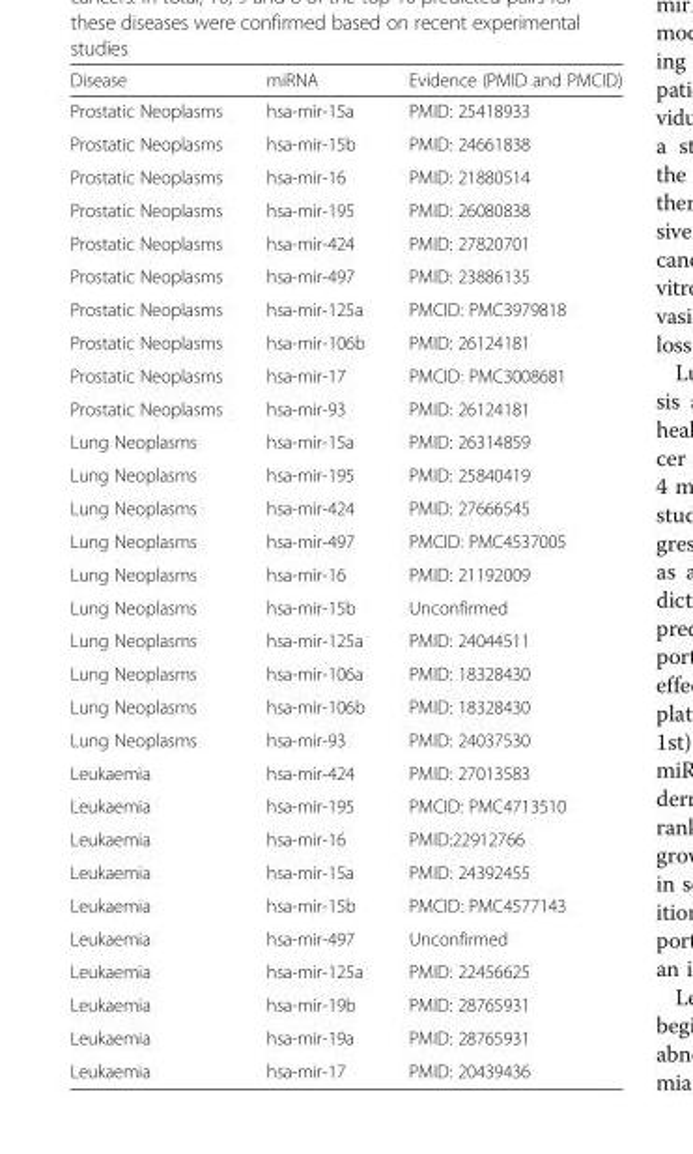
<table><thead><tr><td>Disease</td><td>miRNA</td><td>Evidence (PMID and PMCID)</td></tr></thead><tbody><tr><td>Prostatic Neoplasms</td><td>hsa-mir-15a</td><td>PMID: 25418933</td></tr><tr><td>Prostatic Neoplasms</td><td>hsa-mir-15b</td><td>PMID: 24661838</td></tr><tr><td>Prostatic Neoplasms</td><td>hsa-mir-16</td><td>PMID: 21880514</td></tr><tr><td>Prostatic Neoplasms</td><td>hsa-mir-195</td><td>PMID: 26080838</td></tr><tr><td>Prostatic Neoplasms</td><td>hsa-mir-424</td><td>PMID: 27820701</td></tr><tr><td>Prostatic Neoplasms</td><td>hsa-mir-497</td><td>PMID: 23886135</td></tr><tr><td>Prostatic Neoplasms</td><td>hsa-mir-125a</td><td>PMCID: PMC3979818</td></tr><tr><td>Prostatic Neoplasms</td><td>hsa-mir-106b</td><td>PMID: 26124181</td></tr><tr><td>Prostatic Neoplasms</td><td>hsa-mir-17</td><td>PMCID: PMC3008681</td></tr><tr><td>Prostatic Neoplasms</td><td>hsa-mir-93</td><td>PMID: 26124181</td></tr><tr><td>Lung Neoplasms</td><td>hsa-mir-15a</td><td>PMID: 26314859</td></tr><tr><td>Lung Neoplasms</td><td>hsa-mir-195</td><td>PMID: 25840419</td></tr><tr><td>Lung Neoplasms</td><td>hsa-mir-424</td><td>PMID: 27666545</td></tr><tr><td>Lung Neoplasms</td><td>hsa-mir-497</td><td>PMCID: PMC4537005</td></tr><tr><td>Lung Neoplasms</td><td>hsa-mir-16</td><td>PMID: 21192009</td></tr><tr><td>Lung Neoplasms</td><td>hsa-mir-15b</td><td>Unconfirmed</td></tr><tr><td>Lung Neoplasms</td><td>hsa-mir-125a</td><td>PMID: 24044511</td></tr><tr><td>Lung Neoplasms</td><td>hsa-mir-106a</td><td>PMID: 18328430</td></tr><tr><td>Lung Neoplasms</td><td>hsa-mir-106b</td><td>PMID: 18328430</td></tr><tr><td>Lung Neoplasms</td><td>hsa-mir-93</td><td>PMID: 24037530</td></tr><tr><td>Leukaemia</td><td>hsa-mir-424</td><td>PMID: 27013583</td></tr><tr><td>Leukaemia</td><td>hsa-mir-195</td><td>PMCID: PMC4713510</td></tr><tr><td>Leukaemia</td><td>hsa-mir-16</td><td>PMID:22912766</td></tr><tr><td>Leukaemia</td><td>hsa-mir-15a</td><td>PMID: 24392455</td></tr><tr><td>Leukaemia</td><td>hsa-mir-15b</td><td>PMCID: PMC4577143</td></tr><tr><td>Leukaemia</td><td>hsa-mir-497</td><td>Unconfirmed</td></tr><tr><td>Leukaemia</td><td>hsa-mir-125a</td><td>PMID: 22456625</td></tr><tr><td>Leukaemia</td><td>hsa-mir-19b</td><td>PMID: 28765931</td></tr><tr><td>Leukaemia</td><td>hsa-mir-19a</td><td>PMID: 28765931</td></tr><tr><td>Leukaemia</td><td>hsa-mir-17</td><td>PMID: 20439436</td></tr></tbody></table>